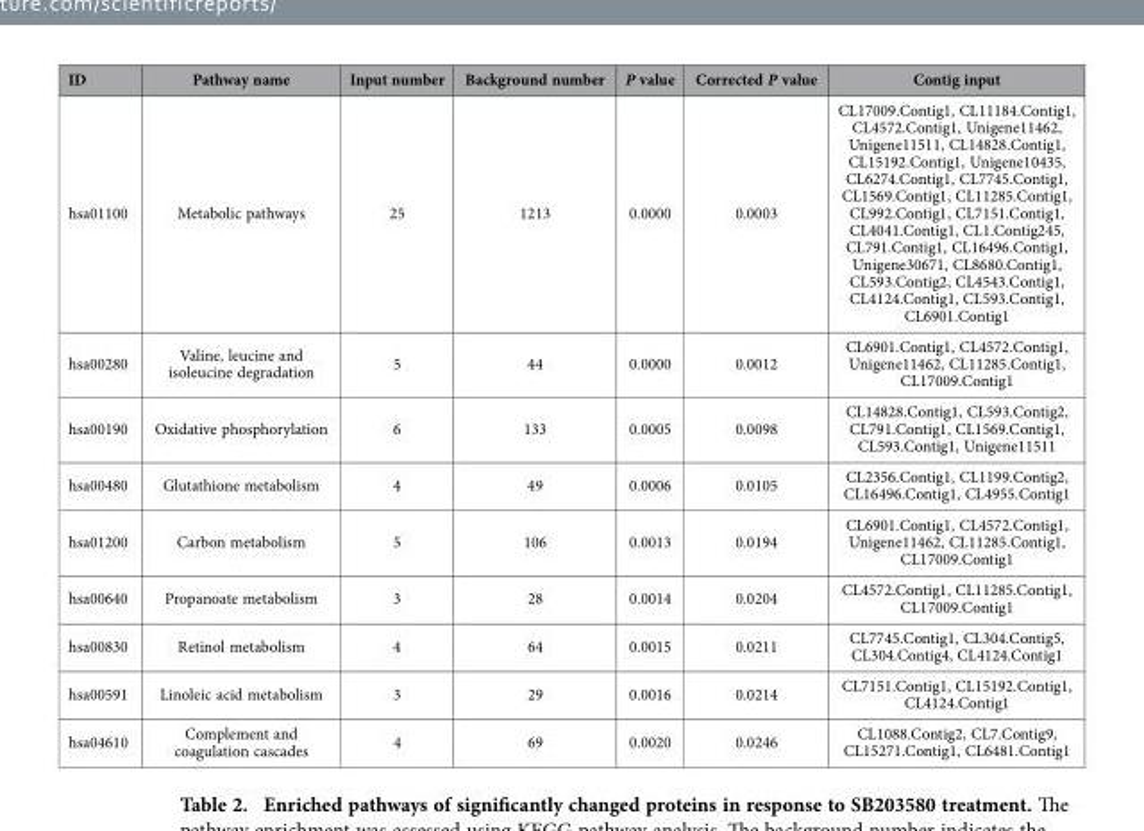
<table><thead><tr><td>ID</td><td>Pathway name</td><td>Input number</td><td>Background number</td><td>P value</td><td>Corrected P value</td><td>Contig input</td></tr></thead><tbody><tr><td>hsa01100</td><td>Metabolic pathways</td><td>25</td><td>1213</td><td>0.0000</td><td>0.0003</td><td>CL17009.Contig1, CL11184.Contig1, CL4572.Contig1, Unigene11462, Unigene11511, CL14828.Contig1, CL15192.Contig1, Unigene10435, CL6274.Contig1, CL7745.Contig1, CL1569.Contig1, CL11285.Contig1, CL992.Contig1, CL7151.Contig1, CL4041.Contig1, CL1.Contig245, CL791.Contig1, CL16496.Contig1, Unigene30671, CL8680.Contig1, CL593.Contig2, CL4543.Contig1, CL4124.Contig1, CL593.Contig1, CL6901.Contig1</td></tr><tr><td>hsa00280</td><td>Valine, leucine and isoleucine degradation</td><td>5</td><td>44</td><td>0.0000</td><td>0.0012</td><td>CL6901.Contig1, CL4572.Contig1, Unigene11462, CL11285.Contig1, CL17009.Contig1</td></tr><tr><td>hsa00190</td><td>Oxidative phosphorylation</td><td>6</td><td>133</td><td>0.0005</td><td>0.0098</td><td>CL14828.Contig1, CL593.Contig2, CL791.Contig1, CL1569.Contig1, CL593.Contig1, Unigene11511</td></tr><tr><td>hsa00480</td><td>Glutathione metabolism</td><td>4</td><td>49</td><td>0.0006</td><td>0.0105</td><td>CL2356.Contig1, CL1199.Contig2, CL16496.Contig1, CL4955.Contig1</td></tr><tr><td>hsa01200</td><td>Carbon metabolism</td><td>5</td><td>106</td><td>0.0013</td><td>0.0194</td><td>CL6901.Contig1, CL4572.Contig1, Unigene11462, CL11285.Contig1, CL17009.Contig1</td></tr><tr><td>hsa00640</td><td>Propanoate metabolism</td><td>3</td><td>28</td><td>0.0014</td><td>0.0204</td><td>CL4572.Contig1, CL11285.Contig1, CL17009.Contig1</td></tr><tr><td>hsa00830</td><td>Retinol metabolism</td><td>4</td><td>64</td><td>0.0015</td><td>0.0211</td><td>CL7745.Contig1, CL304.Contig5, CL304.Contig4, CL4124.Contig1</td></tr><tr><td>hsa00591</td><td>Linoleic acid metabolism</td><td>3</td><td>29</td><td>0.0016</td><td>0.0214</td><td>CL7151.Contig1, CL15192.Contig1, CL4124.Contig1</td></tr><tr><td>hsa04610</td><td>Complement and coagulation cascades</td><td>4</td><td>69</td><td>0.0020</td><td>0.0246</td><td>CL1088.Contig2, CL7.Contig9, CL15271.Contig1, CL6481.Contig1</td></tr></tbody></table>